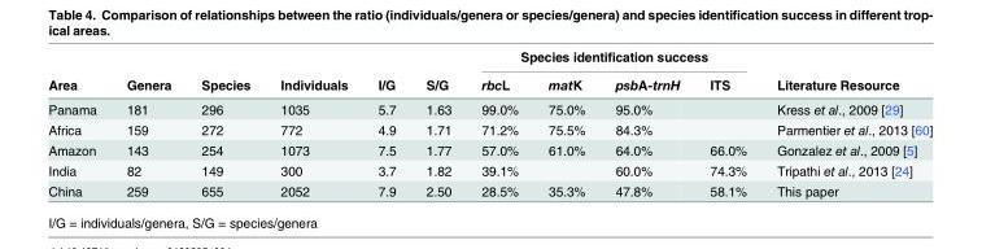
<table><thead><tr><td rowspan="2">Area</td><td rowspan="2">Genera</td><td rowspan="2">Species</td><td rowspan="2">Individuals</td><td rowspan="2">I/G</td><td rowspan="2">S/G</td><td colspan="4">Species identification success</td><td rowspan="2">Literature Resource</td></tr><tr><td>rbcL</td><td>matK</td><td>psbA-trnH</td><td>ITS</td></tr></thead><tbody><tr><td>Panama</td><td>181</td><td>296</td><td>1035</td><td>5.7</td><td>1.63</td><td>99.0%</td><td>75.0%</td><td>95.0%</td><td></td><td>Kress et al., 2009 [29]</td></tr><tr><td>Africa</td><td>159</td><td>272</td><td>772</td><td>4.9</td><td>1.71</td><td>71.2%</td><td>75.5%</td><td>84.3%</td><td></td><td>Parmentier et al., 2013 [60]</td></tr><tr><td>Amazon</td><td>143</td><td>254</td><td>1073</td><td>7.5</td><td>1.77</td><td>57.0%</td><td>61.0%</td><td>64.0%</td><td>66.0%</td><td>Gonzalez et al., 2009 [5]</td></tr><tr><td>India</td><td>82</td><td>149</td><td>300</td><td>3.7</td><td>1.82</td><td>39.1%</td><td></td><td>60.0%</td><td>74.3%</td><td>Tripathi et al., 2013 [24]</td></tr><tr><td>China</td><td>259</td><td>655</td><td>2052</td><td>7.9</td><td>2.50</td><td>28.5%</td><td>35.3%</td><td>47.8%</td><td>58.1%</td><td>This paper</td></tr></tbody></table>